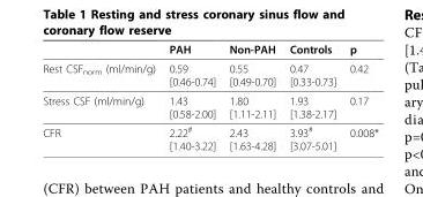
<table><thead><tr><td></td><td>PAH</td><td>Non-PAH</td><td>Controls</td><td>p</td></tr></thead><tbody><tr><td>Rest CSF<sub>norm</sub> (ml/min/g)</td><td>0.59 [0.46-0.74]</td><td>0.55 [0.49-0.70]</td><td>0.47 [0.33-0.73]</td><td>0.42</td></tr><tr><td>Stress CSF (ml/min/g)</td><td>1.43 [0.58-2.00]</td><td>1.80 [1.11-2.11]</td><td>1.93 [1.38-2.17]</td><td>0.17</td></tr><tr><td>CFR</td><td>2.22<sup>#</sup> [1.40-3.22]</td><td>2.43 [1.63-4.28]</td><td>3.93<sup>#</sup> [3.07-5.01]</td><td>0.008*</td></tr></tbody></table>